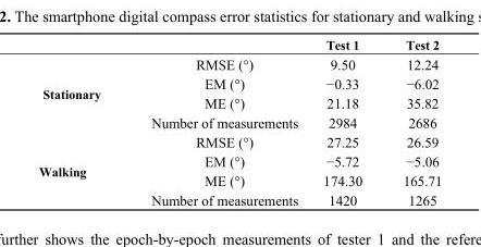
<table><thead><tr><td></td><td></td><td>Test 1</td><td>Test 2</td></tr></thead><tbody><tr><td rowspan="4">Stationary</td><td>RMSE (°)</td><td>9.50</td><td>12.24</td></tr><tr><td>EM (°)</td><td>−0.33</td><td>−6.02</td></tr><tr><td>ME (°)</td><td>21.18</td><td>35.82</td></tr><tr><td>Number of measurements</td><td>2984</td><td>2686</td></tr><tr><td rowspan="4">Walking</td><td>RMSE (°)</td><td>27.25</td><td>26.59</td></tr><tr><td>EM (°)</td><td>−5.72</td><td>−5.06</td></tr><tr><td>ME (°)</td><td>174.30</td><td>165.71</td></tr><tr><td>Number of measurements</td><td>1420</td><td>1265</td></tr></tbody></table>